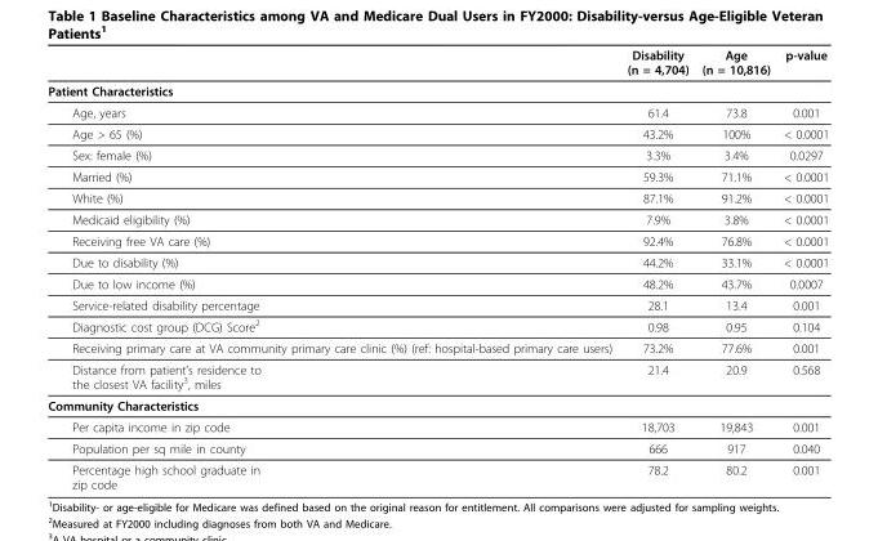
<table><thead><tr><td></td><td>Disability (n = 4,704)</td><td>Age (n = 10,816)</td><td>p-value</td></tr></thead><tbody><tr><td colspan="4">Patient Characteristics</td></tr><tr><td>Age, years</td><td>61.4</td><td>73.8</td><td>0.001</td></tr><tr><td>Age &gt; 65 (%)</td><td>43.2%</td><td>100%</td><td>&lt; 0.0001</td></tr><tr><td>Sex: female (%)</td><td>3.3%</td><td>3.4%</td><td>0.0297</td></tr><tr><td>Married (%)</td><td>59.3%</td><td>71.1%</td><td>&lt; 0.0001</td></tr><tr><td>White (%)</td><td>87.1%</td><td>91.2%</td><td>&lt; 0.0001</td></tr><tr><td>Medicaid eligibility (%)</td><td>7.9%</td><td>3.8%</td><td>&lt; 0.0001</td></tr><tr><td>Receiving free VA care (%)</td><td>92.4%</td><td>76.8%</td><td>&lt; 0.0001</td></tr><tr><td>Due to disability (%)</td><td>44.2%</td><td>33.1%</td><td>&lt; 0.0001</td></tr><tr><td>Due to low income (%)</td><td>48.2%</td><td>43.7%</td><td>0.0007</td></tr><tr><td>Service-related disability percentage</td><td>28.1</td><td>13.4</td><td>0.001</td></tr><tr><td>Diagnostic cost group (DCG) Score<sup>2</sup></td><td>0.98</td><td>0.95</td><td>0.104</td></tr><tr><td>Receiving primary care at VA community primary care clinic (%) (ref: hospital-based primary care users)</td><td>73.2%</td><td>77.6%</td><td>0.001</td></tr><tr><td>Distance from patient’s residence to the closest VA facility<sup>3</sup>, miles</td><td>21.4</td><td>20.9</td><td>0.568</td></tr><tr><td colspan="4">Community Characteristics</td></tr><tr><td>Per capita income in zip code</td><td>18,703</td><td>19,843</td><td>0.001</td></tr><tr><td>Population per sq mile in county</td><td>666</td><td>917</td><td>0.040</td></tr><tr><td>Percentage high school graduate in zip code</td><td>78.2</td><td>80.2</td><td>0.001</td></tr></tbody></table>